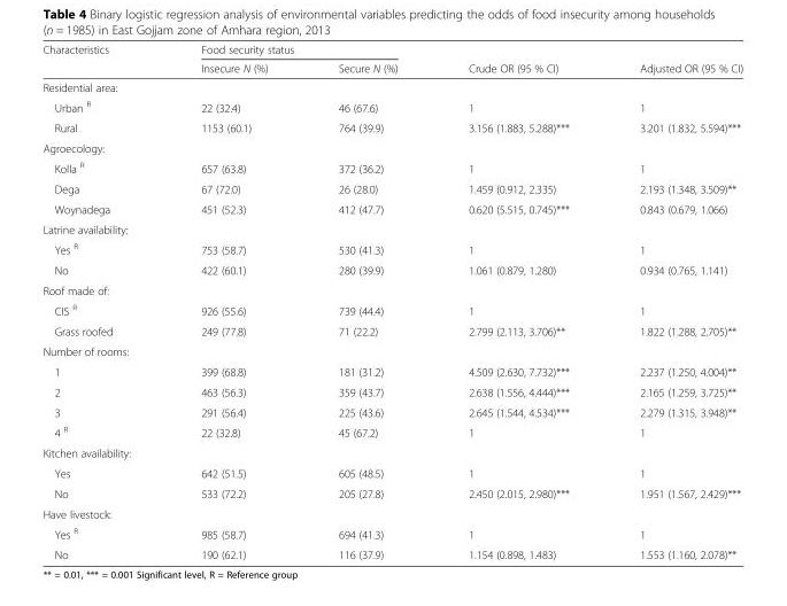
<table><thead><tr><td rowspan="2">Characteristics</td><td colspan="2">Food security status</td><td rowspan="2">Crude OR (95 % CI)</td><td rowspan="2">Adjusted OR (95 % CI)</td></tr><tr><td>Insecure N (%)</td><td>Secure N (%)</td></tr></thead><tbody><tr><td colspan="5">Residential area:</td></tr><tr><td>Urban <sup>R</sup></td><td>22 (32.4)</td><td>46 (67.6)</td><td>1</td><td>1</td></tr><tr><td>Rural</td><td>1153 (60.1)</td><td>764 (39.9)</td><td>3.156 (1.883, 5.288)***</td><td>3.201 (1.832, 5.594)***</td></tr><tr><td colspan="5">Agroecology:</td></tr><tr><td>Kolla <sup>R</sup></td><td>657 (63.8)</td><td>372 (36.2)</td><td>1</td><td>1</td></tr><tr><td>Dega</td><td>67 (72.0)</td><td>26 (28.0)</td><td>1.459 (0.912, 2.335)</td><td>2.193 (1.348, 3.509)**</td></tr><tr><td>Woynadega</td><td>451 (52.3)</td><td>412 (47.7)</td><td>0.620 (5.515, 0.745)***</td><td>0.843 (0.679, 1.066)</td></tr><tr><td colspan="5">Latrine availability:</td></tr><tr><td>Yes <sup>R</sup></td><td>753 (58.7)</td><td>530 (41.3)</td><td>1</td><td>1</td></tr><tr><td>No</td><td>422 (60.1)</td><td>280 (39.9)</td><td>1.061 (0.879, 1.280)</td><td>0.934 (0.765, 1.141)</td></tr><tr><td colspan="5">Roof made of:</td></tr><tr><td>CIS <sup>R</sup></td><td>926 (55.6)</td><td>739 (44.4)</td><td>1</td><td>1</td></tr><tr><td>Grass roofed</td><td>249 (77.8)</td><td>71 (22.2)</td><td>2.799 (2.113, 3.706)**</td><td>1.822 (1.288, 2.705)**</td></tr><tr><td colspan="5">Number of rooms:</td></tr><tr><td>1</td><td>399 (68.8)</td><td>181 (31.2)</td><td>4.509 (2.630, 7.732)***</td><td>2.237 (1.250, 4.004)**</td></tr><tr><td>2</td><td>463 (56.3)</td><td>359 (43.7)</td><td>2.638 (1.556, 4.444)***</td><td>2.165 (1.259, 3.725)**</td></tr><tr><td>3</td><td>291 (56.4)</td><td>225 (43.6)</td><td>2.645 (1.544, 4.534)***</td><td>2.279 (1.315, 3.948)**</td></tr><tr><td>4 <sup>R</sup></td><td>22 (32.8)</td><td>45 (67.2)</td><td>1</td><td>1</td></tr><tr><td colspan="5">Kitchen availability:</td></tr><tr><td>Yes</td><td>642 (51.5)</td><td>605 (48.5)</td><td>1</td><td>1</td></tr><tr><td>No</td><td>533 (72.2)</td><td>205 (27.8)</td><td>2.450 (2.015, 2.980)***</td><td>1.951 (1.567, 2.429)***</td></tr><tr><td colspan="5">Have livestock:</td></tr><tr><td>Yes <sup>R</sup></td><td>985 (58.7)</td><td>694 (41.3)</td><td>1</td><td>1</td></tr><tr><td>No</td><td>190 (62.1)</td><td>116 (37.9)</td><td>1.154 (0.898, 1.483)</td><td>1.553 (1.160, 2.078)**</td></tr></tbody></table>